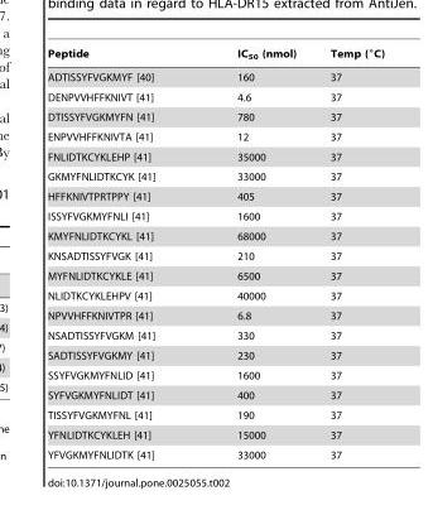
<table><thead><tr><td>Peptide</td><td>IC<sub>50</sub> (nmol)</td><td>Temp (°C)</td></tr></thead><tbody><tr><td>ADTISSYFVGKMYF [40]</td><td>160</td><td>37</td></tr><tr><td>DENPVVHFFKNIVT [41]</td><td>4.6</td><td>37</td></tr><tr><td>DTISSYFVGKMYFN [41]</td><td>780</td><td>37</td></tr><tr><td>ENPVVHFFKNIVTA [41]</td><td>12</td><td>37</td></tr><tr><td>FNLIDTKCYKLEHP [41]</td><td>35000</td><td>37</td></tr><tr><td>GKMYFNLIDTKCYK [41]</td><td>33000</td><td>37</td></tr><tr><td>HFFKNIVTPRTPPY [41]</td><td>405</td><td>37</td></tr><tr><td>ISSYFVGKMYFNLI [41]</td><td>1600</td><td>37</td></tr><tr><td>KMYFNLIDTKCYKL [41]</td><td>68000</td><td>37</td></tr><tr><td>KNSADTISSYFVGK [41]</td><td>210</td><td>37</td></tr><tr><td>MYFNLIDTKCYKLE [41]</td><td>6500</td><td>37</td></tr><tr><td>NLIDTKCYKLEHPV [41]</td><td>40000</td><td>37</td></tr><tr><td>NPVVHFFKNIVTPR [41]</td><td>6.8</td><td>37</td></tr><tr><td>NSADTISSYFVGKM [41]</td><td>330</td><td>37</td></tr><tr><td>SADTISSYFVGKMY [41]</td><td>230</td><td>37</td></tr><tr><td>SSYFVGKMYFNLID [41]</td><td>1600</td><td>37</td></tr><tr><td>SYFVGKMYFNLIDT [41]</td><td>400</td><td>37</td></tr><tr><td>TISSYFVGKMYFNL [41]</td><td>190</td><td>37</td></tr><tr><td>YFNLIDTKCYKLEH [41]</td><td>15000</td><td>37</td></tr><tr><td>YFVGKMYFNLIDTK [41]</td><td>33000</td><td>37</td></tr></tbody></table>